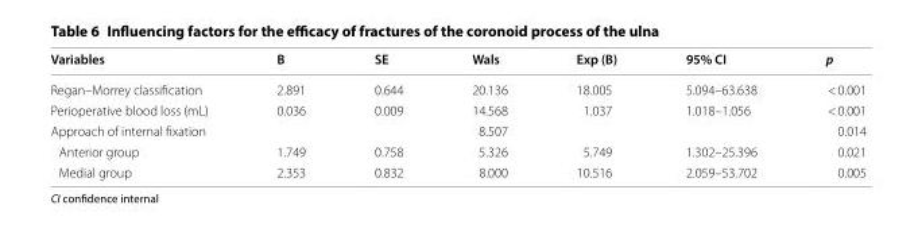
<table><thead><tr><td>Variables</td><td>B</td><td>SE</td><td>Wals</td><td>Exp (B)</td><td>95% CI</td><td>p</td></tr></thead><tbody><tr><td>Regan–Morrey classification</td><td>2.891</td><td>0.644</td><td>20.136</td><td>18.005</td><td>5.094–63.638</td><td>&lt; 0.001</td></tr><tr><td>Perioperative blood loss (mL)</td><td>0.036</td><td>0.009</td><td>14.568</td><td>1.037</td><td>1.018–1.056</td><td>&lt; 0.001</td></tr><tr><td>Approach of internal fixation</td><td></td><td></td><td>8.507</td><td></td><td></td><td>0.014</td></tr><tr><td>Anterior group</td><td>1.749</td><td>0.758</td><td>5.326</td><td>5.749</td><td>1.302–25.396</td><td>0.021</td></tr><tr><td>Medial group</td><td>2.353</td><td>0.832</td><td>8.000</td><td>10.516</td><td>2.059–53.702</td><td>0.005</td></tr></tbody></table>